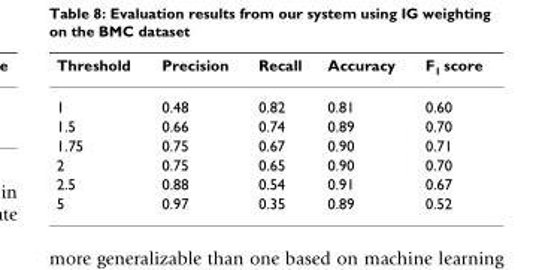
<table><thead><tr><td>Threshold</td><td>Precision</td><td>Recall</td><td>Accuracy</td><td>F<sub>1</sub> score</td></tr></thead><tbody><tr><td>1</td><td>0.48</td><td>0.82</td><td>0.81</td><td>0.60</td></tr><tr><td>1.5</td><td>0.66</td><td>0.74</td><td>0.89</td><td>0.70</td></tr><tr><td>1.75</td><td>0.75</td><td>0.67</td><td>0.90</td><td>0.71</td></tr><tr><td>2</td><td>0.75</td><td>0.65</td><td>0.90</td><td>0.70</td></tr><tr><td>2.5</td><td>0.88</td><td>0.54</td><td>0.91</td><td>0.67</td></tr><tr><td>5</td><td>0.97</td><td>0.35</td><td>0.89</td><td>0.52</td></tr></tbody></table>